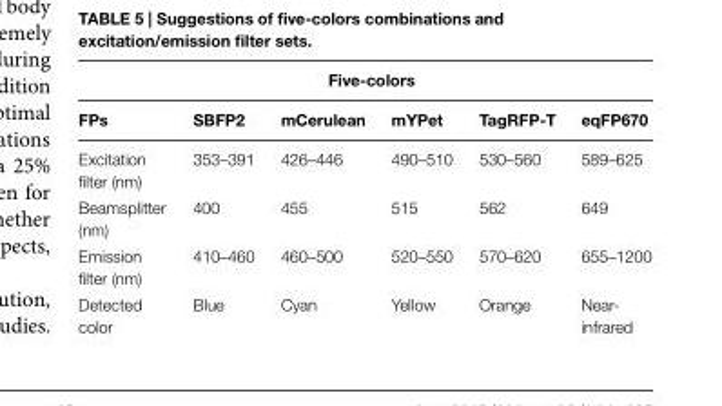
<table><thead><tr><td colspan="6">Five-colors</td></tr><tr><td>FPs</td><td>SBFP2</td><td>mCerulean</td><td>mYPet</td><td>TagRFP-T</td><td>eqFP670</td></tr></thead><tbody><tr><td>Excitation filter (nm)</td><td>353–391</td><td>426–446</td><td>490–510</td><td>530–560</td><td>589–625</td></tr><tr><td>Beamsplitter (nm)</td><td>400</td><td>455</td><td>515</td><td>562</td><td>649</td></tr><tr><td>Emission filter (nm)</td><td>410–460</td><td>460–500</td><td>520–550</td><td>570–620</td><td>655–1200</td></tr><tr><td>Detected color</td><td>Blue</td><td>Cyan</td><td>Yellow</td><td>Orange</td><td>Near- infrared</td></tr></tbody></table>